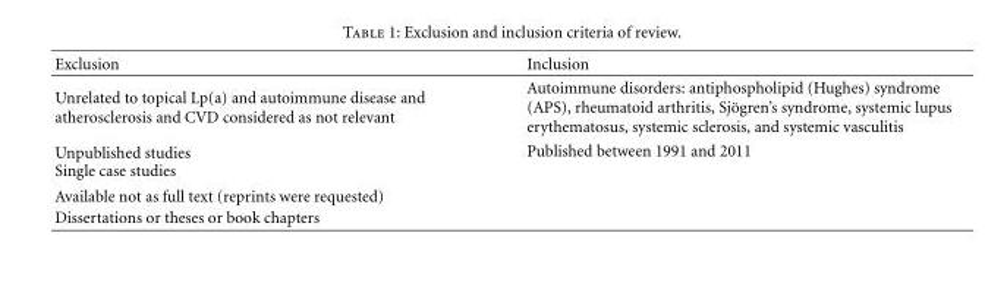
<table><thead><tr><td>Exclusion</td><td>Inclusion</td></tr></thead><tbody><tr><td>Unrelated to topical Lp(a) and autoimmune disease and atherosclerosis and CVD considered as not relevant</td><td>Autoimmune disorders: antiphospholipid (Hughes) syndrome (APS), rheumatoid arthritis, Sj¨ogren’s syndrome, systemic lupus erythematosus, systemic sclerosis, and systemic vasculitis</td></tr><tr><td>Unpublished studies</td><td>Published between 1991 and 2011</td></tr><tr><td colspan="2">Single case studies</td></tr><tr><td colspan="2">Available not as full text (reprints were requested)</td></tr><tr><td>Dissertations or theses or book chapters</td><td></td></tr></tbody></table>